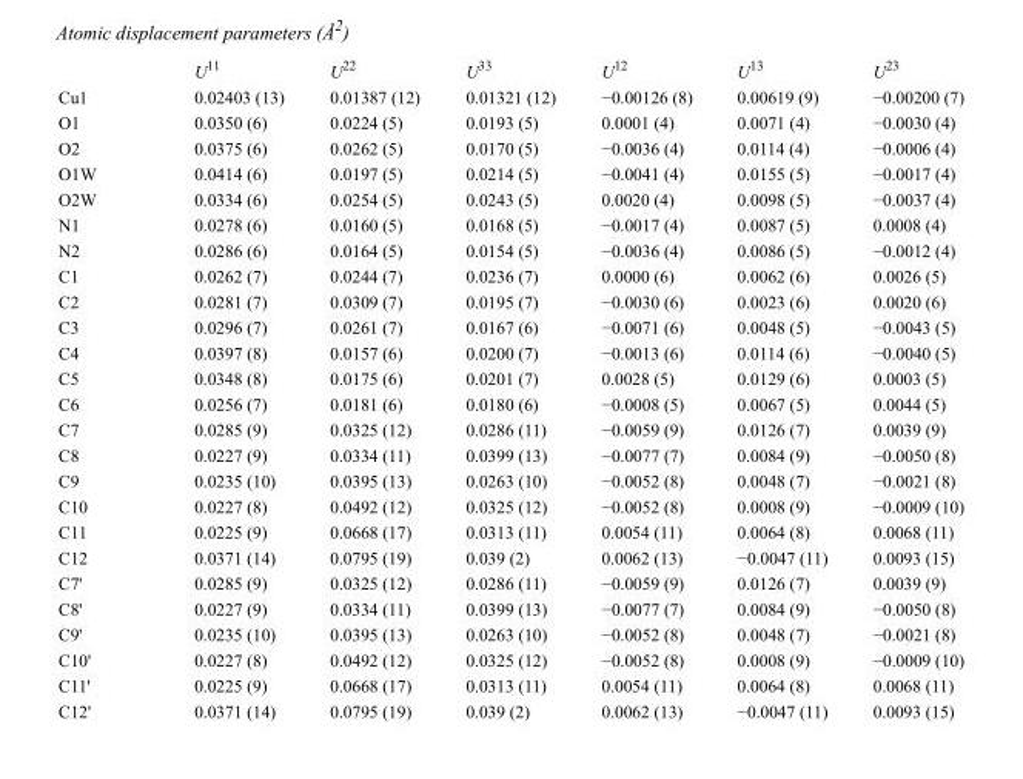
<table><thead><tr><td></td><td>U<sup>11</sup></td><td>U<sup>22</sup></td><td>U<sup>33</sup></td><td>U<sup>12</sup></td><td>U<sup>13</sup></td><td>U<sup>23</sup></td></tr></thead><tbody><tr><td>Cu1</td><td>0.02403 (13)</td><td>0.01387 (12)</td><td>0.01321 (12)</td><td>−0.00126 (8)</td><td>0.00619 (9)</td><td>−0.00200 (7)</td></tr><tr><td>O1</td><td>0.0350 (6)</td><td>0.0224 (5)</td><td>0.0193 (5)</td><td>0.0001 (4)</td><td>0.0071 (4)</td><td>−0.0030 (4)</td></tr><tr><td>O2</td><td>0.0375 (6)</td><td>0.0262 (5)</td><td>0.0170 (5)</td><td>−0.0036 (4)</td><td>0.0114 (4)</td><td>−0.0006 (4)</td></tr><tr><td>O1W</td><td>0.0414 (6)</td><td>0.0197 (5)</td><td>0.0214 (5)</td><td>−0.0041 (4)</td><td>0.0155 (5)</td><td>−0.0017 (4)</td></tr><tr><td>O2W</td><td>0.0334 (6)</td><td>0.0254 (5)</td><td>0.0243 (5)</td><td>0.0020 (4)</td><td>0.0098 (5)</td><td>−0.0037 (4)</td></tr><tr><td>N1</td><td>0.0278 (6)</td><td>0.0160 (5)</td><td>0.0168 (5)</td><td>−0.0017 (4)</td><td>0.0087 (5)</td><td>0.0008 (4)</td></tr><tr><td>N2</td><td>0.0286 (6)</td><td>0.0164 (5)</td><td>0.0154 (5)</td><td>−0.0036 (4)</td><td>0.0086 (5)</td><td>−0.0012 (4)</td></tr><tr><td>C1</td><td>0.0262 (7)</td><td>0.0244 (7)</td><td>0.0236 (7)</td><td>0.0000 (6)</td><td>0.0062 (6)</td><td>0.0026 (5)</td></tr><tr><td>C2</td><td>0.0281 (7)</td><td>0.0309 (7)</td><td>0.0195 (7)</td><td>−0.0030 (6)</td><td>0.0023 (6)</td><td>0.0020 (6)</td></tr><tr><td>C3</td><td>0.0296 (7)</td><td>0.0261 (7)</td><td>0.0167 (6)</td><td>−0.0071 (6)</td><td>0.0048 (5)</td><td>−0.0043 (5)</td></tr><tr><td>C4</td><td>0.0397 (8)</td><td>0.0157 (6)</td><td>0.0200 (7)</td><td>−0.0013 (6)</td><td>0.0114 (6)</td><td>−0.0040 (5)</td></tr><tr><td>C5</td><td>0.0348 (8)</td><td>0.0175 (6)</td><td>0.0201 (7)</td><td>0.0028 (5)</td><td>0.0129 (6)</td><td>0.0003 (5)</td></tr><tr><td>C6</td><td>0.0256 (7)</td><td>0.0181 (6)</td><td>0.0180 (6)</td><td>−0.0008 (5)</td><td>0.0067 (5)</td><td>0.0044 (5)</td></tr><tr><td>C7</td><td>0.0285 (9)</td><td>0.0325 (12)</td><td>0.0286 (11)</td><td>−0.0059 (9)</td><td>0.0126 (7)</td><td>0.0039 (9)</td></tr><tr><td>C8</td><td>0.0227 (9)</td><td>0.0334 (11)</td><td>0.0399 (13)</td><td>−0.0077 (7)</td><td>0.0084 (9)</td><td>−0.0050 (8)</td></tr><tr><td>C9</td><td>0.0235 (10)</td><td>0.0395 (13)</td><td>0.0263 (10)</td><td>−0.0052 (8)</td><td>0.0048 (7)</td><td>−0.0021 (8)</td></tr><tr><td>C10</td><td>0.0227 (8)</td><td>0.0492 (12)</td><td>0.0325 (12)</td><td>−0.0052 (8)</td><td>0.0008 (9)</td><td>−0.0009 (10)</td></tr><tr><td>C11</td><td>0.0225 (9)</td><td>0.0668 (17)</td><td>0.0313 (11)</td><td>0.0054 (11)</td><td>0.0064 (8)</td><td>0.0068 (11)</td></tr><tr><td>C12</td><td>0.0371 (14)</td><td>0.0795 (19)</td><td>0.039 (2)</td><td>0.0062 (13)</td><td>−0.0047 (11)</td><td>0.0093 (15)</td></tr><tr><td>C7&#x27;</td><td>0.0285 (9)</td><td>0.0325 (12)</td><td>0.0286 (11)</td><td>−0.0059 (9)</td><td>0.0126 (7)</td><td>0.0039 (9)</td></tr><tr><td>C8&#x27;</td><td>0.0227 (9)</td><td>0.0334 (11)</td><td>0.0399 (13)</td><td>−0.0077 (7)</td><td>0.0084 (9)</td><td>−0.0050 (8)</td></tr><tr><td>C9&#x27;</td><td>0.0235 (10)</td><td>0.0395 (13)</td><td>0.0263 (10)</td><td>−0.0052 (8)</td><td>0.0048 (7)</td><td>−0.0021 (8)</td></tr><tr><td>C10&#x27;</td><td>0.0227 (8)</td><td>0.0492 (12)</td><td>0.0325 (12)</td><td>−0.0052 (8)</td><td>0.0008 (9)</td><td>−0.0009 (10)</td></tr><tr><td>C11&#x27;</td><td>0.0225 (9)</td><td>0.0668 (17)</td><td>0.0313 (11)</td><td>0.0054 (11)</td><td>0.0064 (8)</td><td>0.0068 (11)</td></tr><tr><td>C12&#x27;</td><td>0.0371 (14)</td><td>0.0795 (19)</td><td>0.039 (2)</td><td>0.0062 (13)</td><td>−0.0047 (11)</td><td>0.0093 (15)</td></tr></tbody></table>